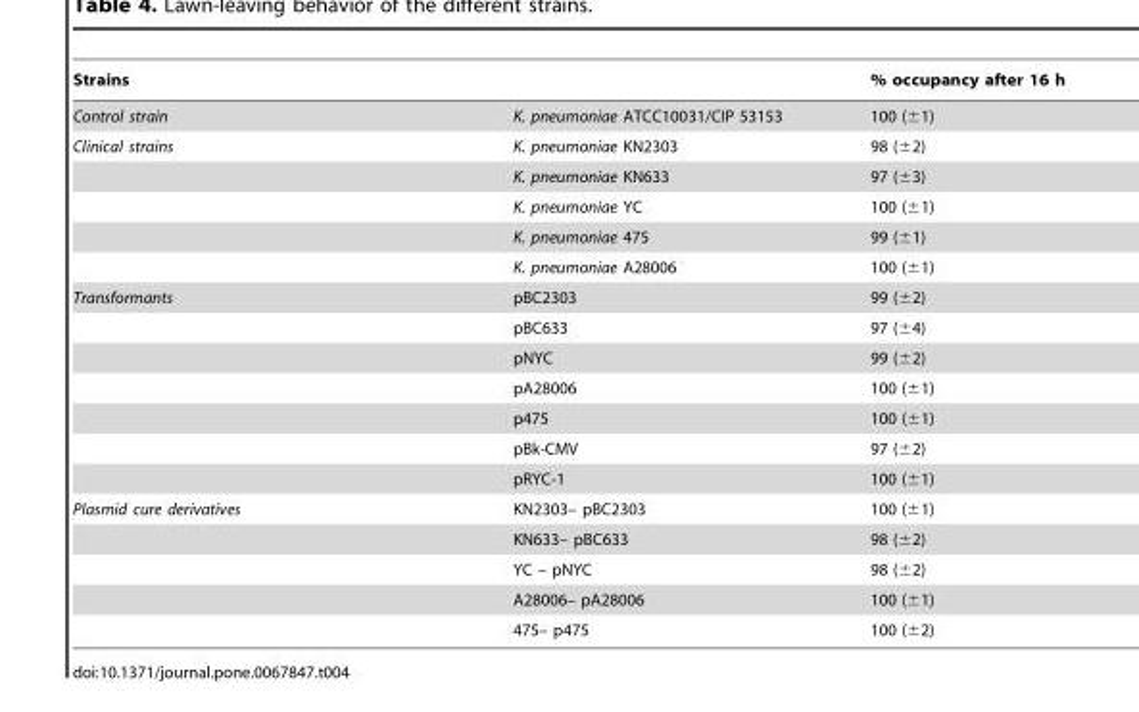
<table><thead><tr><td colspan="2">Strains</td><td rowspan="2">% occupancy after 16 h 100 (±1)</td></tr><tr><td>Control strain</td><td>K. pneumoniae ATCC10031/CIP 53153</td></tr></thead><tbody><tr><td rowspan="5">Clinical strains</td><td>K. pneumoniae KN2303</td><td>98 (±2)</td></tr><tr><td>K. pneumoniae KN633</td><td>97 (±3)</td></tr><tr><td>K. pneumoniae YC</td><td>100 (±1)</td></tr><tr><td>K. pneumoniae 475</td><td>99 (±1)</td></tr><tr><td>K. pneumoniae A28006</td><td>100 (±1)</td></tr><tr><td rowspan="7">Transformants</td><td>pBC2303</td><td>99 (±2)</td></tr><tr><td>pBC633</td><td>97 (±4)</td></tr><tr><td>pNYC</td><td>99 (±2)</td></tr><tr><td>pA28006</td><td>100 (±1)</td></tr><tr><td>p475</td><td>100 (±1)</td></tr><tr><td>pBk-CMV</td><td>97 (±2)</td></tr><tr><td>pRYC-1</td><td>100 (±1)</td></tr><tr><td rowspan="5">Plasmid cure derivatives</td><td>KN2303– pBC2303</td><td>100 (±1)</td></tr><tr><td>KN633– pBC633</td><td>98 (±2)</td></tr><tr><td>YC – pNYC</td><td>98 (±2)</td></tr><tr><td>A28006– pA28006</td><td>100 (±1)</td></tr><tr><td>475– p475</td><td>100 (±2)</td></tr></tbody></table>